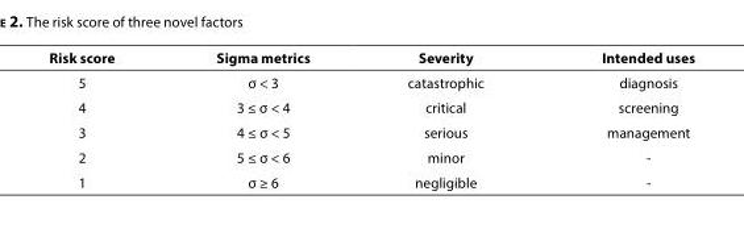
<table><thead><tr><td>Risk score</td><td>Sigma metrics</td><td>Severity</td><td>Intended uses</td></tr></thead><tbody><tr><td>5</td><td>σ &lt; 3</td><td>catastrophic</td><td>diagnosis</td></tr><tr><td>4</td><td>3 ≤ σ &lt; 4</td><td>critical</td><td>screening</td></tr><tr><td>3</td><td>4 ≤ σ &lt; 5</td><td>serious</td><td>management</td></tr><tr><td>2</td><td>5 ≤ σ &lt; 6</td><td>minor</td><td>-</td></tr><tr><td>1</td><td>σ ≥ 6</td><td>negligible</td><td>-</td></tr></tbody></table>